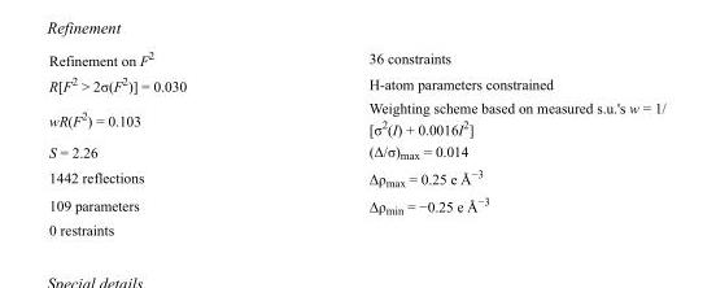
<table><tbody><tr><td>Refinement on F<sup>2</sup></td><td>36 constraints</td></tr><tr><td>R[F<sup>2</sup> &gt; 2σ(F<sup>2</sup>)] = 0.030</td><td>H-atom parameters constrained</td></tr><tr><td>wR(F<sup>2</sup>) = 0.103</td><td>Weighting scheme based on measured s.u.&#x27;s w = 1/ [σ<sup>2</sup>(I) + 0.0016I<sup>2</sup>]</td></tr><tr><td>S = 2.26</td><td>(Δ/σ)<sub>max</sub> = 0.014</td></tr><tr><td>1442 reflections</td><td>Δρ<sub>max</sub> = 0.25 e Å<sup>−3</sup></td></tr><tr><td>109 parameters</td><td>Δρ<sub>min</sub> = −0.25 e Å<sup>−3</sup></td></tr><tr><td>0 restraints</td><td></td></tr></tbody></table>